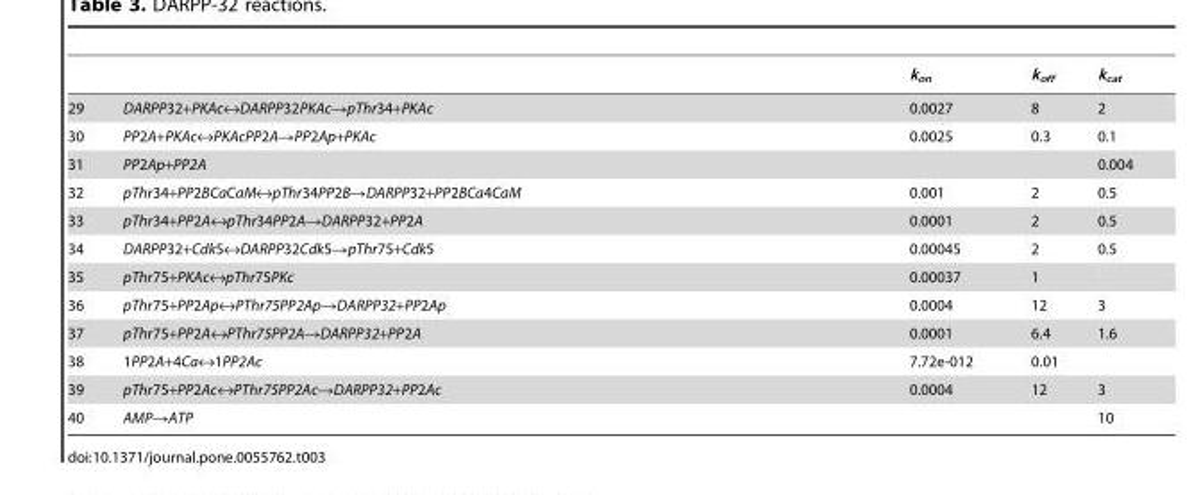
<table><thead><tr><td></td><td></td><td>k<sub>on</sub></td><td>k<sub>off</sub></td><td>k<sub>cat</sub></td></tr></thead><tbody><tr><td>29</td><td>DARPP32+PKAc↔DARPP32PKAc→pThr34+PKAc</td><td>0.0027</td><td>8</td><td>2</td></tr><tr><td>30</td><td>PP2A+PKAc↔PKAcPP2A→PP2Ap+PKAc</td><td>0.0025</td><td>0.3</td><td>0.1</td></tr><tr><td>31</td><td>PP2Ap+PP2A</td><td></td><td></td><td>0.004</td></tr><tr><td>32</td><td>pThr34+PP2BCaCaM↔pThr34PP2B→DARPP32+PP2BCa4CaM</td><td>0.001</td><td>2</td><td>0.5</td></tr><tr><td>33</td><td>pThr34+PP2A↔pThr34PP2A→DARPP32+PP2A</td><td>0.0001</td><td>2</td><td>0.5</td></tr><tr><td>34</td><td>DARPP32+Cdk5↔DARPP32Cdk5→pThr75+Cdk5</td><td>0.00045</td><td>2</td><td>0.5</td></tr><tr><td>35</td><td>pThr75+PKAc↔pThr75PKc</td><td>0.00037</td><td>1</td><td></td></tr><tr><td>36</td><td>pThr75+PP2Ap↔PThr75PP2Ap→DARPP32+PP2Ap</td><td>0.0004</td><td>12</td><td>3</td></tr><tr><td>37</td><td>pThr75+PP2A↔PThr75PP2A→DARPP32+PP2A</td><td>0.0001</td><td>6.4</td><td>1.6</td></tr><tr><td>38</td><td>1PP2A+4Ca↔1PP2Ac</td><td>7.72e-012</td><td>0.01</td><td></td></tr><tr><td>39</td><td>pThr75+PP2Ac↔PThr75PP2Ac→DARPP32+PP2Ac</td><td>0.0004</td><td>12</td><td>3</td></tr><tr><td>40</td><td>AMP→ATP</td><td></td><td></td><td>10</td></tr></tbody></table>